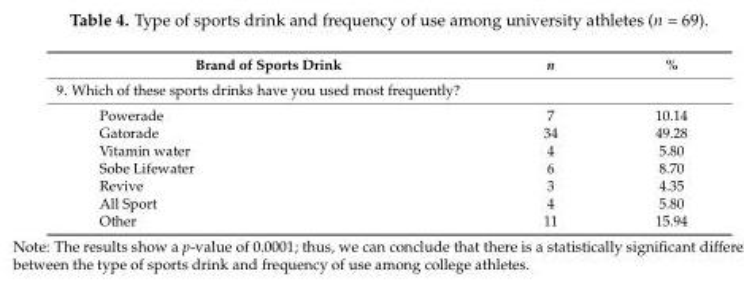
<table><thead><tr><td>Brand of Sports Drink</td><td>n</td><td>%</td></tr></thead><tbody><tr><td colspan="3">9. Which of these sports drinks have you used most frequently?</td></tr><tr><td>Powerade</td><td>7</td><td>10.14</td></tr><tr><td>Gatorade</td><td>34</td><td>49.28</td></tr><tr><td>Vitamin water</td><td>4</td><td>5.80</td></tr><tr><td>Sobe Lifewater</td><td>6</td><td>8.70</td></tr><tr><td>Revive</td><td>3</td><td>4.35</td></tr><tr><td>All Sport</td><td>4</td><td>5.80</td></tr><tr><td>Other</td><td>11</td><td>15.94</td></tr></tbody></table>